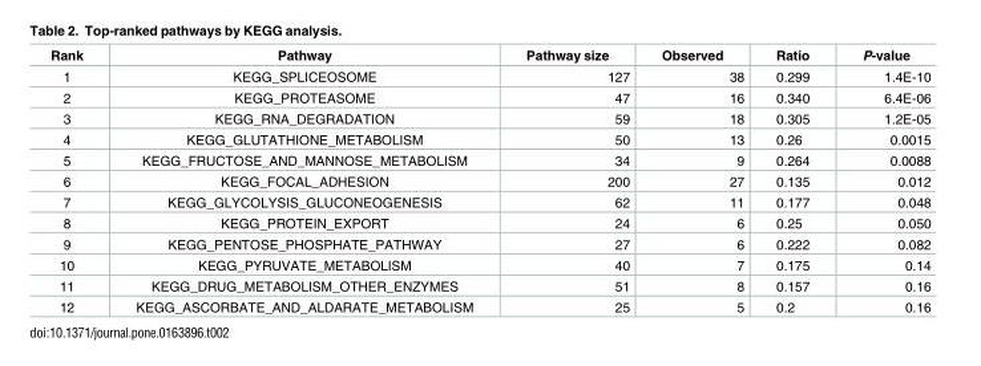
<table><thead><tr><td>Rank</td><td>Pathway</td><td>Pathway size</td><td>Observed</td><td>Ratio</td><td>P-value</td></tr></thead><tbody><tr><td>1</td><td>KEGG_SPLICEOSOME</td><td>127</td><td>38</td><td>0.299</td><td>1.4E-10</td></tr><tr><td>2</td><td>KEGG_PROTEASOME</td><td>47</td><td>16</td><td>0.340</td><td>6.4E-06</td></tr><tr><td>3</td><td>KEGG_RNA_DEGRADATION</td><td>59</td><td>18</td><td>0.305</td><td>1.2E-05</td></tr><tr><td>4</td><td>KEGG_GLUTATHIONE_METABOLISM</td><td>50</td><td>13</td><td>0.26</td><td>0.0015</td></tr><tr><td>5</td><td>KEGG_FRUCTOSE_AND_MANNOSE_METABOLISM</td><td>34</td><td>9</td><td>0.264</td><td>0.0088</td></tr><tr><td>6</td><td>KEGG_FOCAL_ADHESION</td><td>200</td><td>27</td><td>0.135</td><td>0.012</td></tr><tr><td>7</td><td>KEGG_GLYCOLYSIS_GLUCONEOGENESIS</td><td>62</td><td>11</td><td>0.177</td><td>0.048</td></tr><tr><td>8</td><td>KEGG_PROTEIN_EXPORT</td><td>24</td><td>6</td><td>0.25</td><td>0.050</td></tr><tr><td>9</td><td>KEGG_PENTOSE_PHOSPHATE_PATHWAY</td><td>27</td><td>6</td><td>0.222</td><td>0.082</td></tr><tr><td>10</td><td>KEGG_PYRUVATE_METABOLISM</td><td>40</td><td>7</td><td>0.175</td><td>0.14</td></tr><tr><td>11</td><td>KEGG_DRUG_METABOLISM_OTHER_ENZYMES</td><td>51</td><td>8</td><td>0.157</td><td>0.16</td></tr><tr><td>12</td><td>KEGG_ASCORBATE_AND_ALDARATE_METABOLISM</td><td>25</td><td>5</td><td>0.2</td><td>0.16</td></tr></tbody></table>